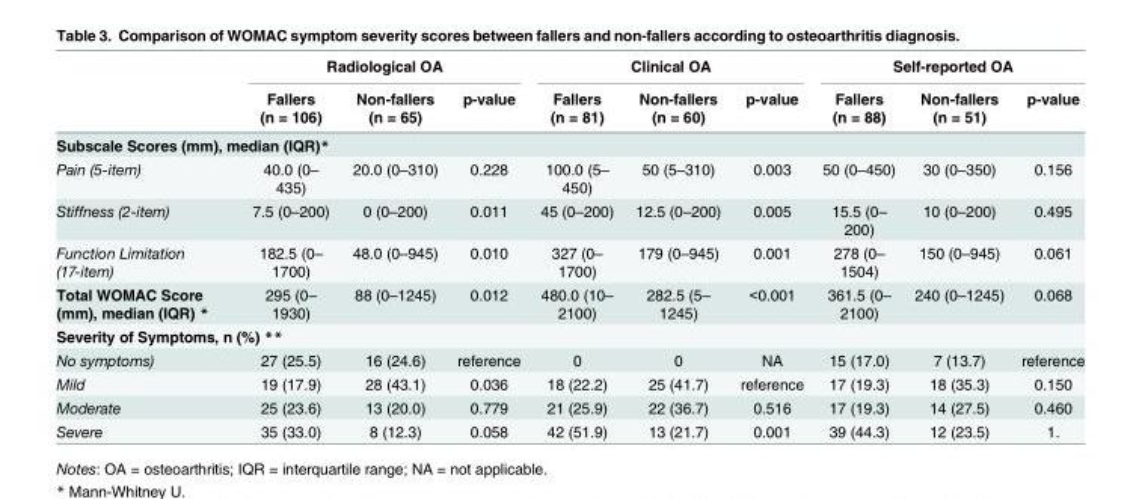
<table><thead><tr><td rowspan="2"></td><td colspan="3">Radiological OA</td><td colspan="3">Clinical OA</td><td colspan="3">Self-reported OA</td></tr><tr><td>Fallers (n = 106)</td><td>Non-fallers (n = 65)</td><td>p-value</td><td>Fallers (n = 81)</td><td>Non-fallers (n = 60)</td><td>p-value</td><td>Fallers (n = 88)</td><td>Non-fallers (n = 51)</td><td>p-value</td></tr></thead><tbody><tr><td colspan="10">Subscale Scores (mm), median (IQR)*</td></tr><tr><td>Pain (5-item)</td><td>40.0 (0– 435)</td><td>20.0 (0–310)</td><td>0.228</td><td>100.0 (5– 450)</td><td>50 (5–310)</td><td>0.003</td><td>50 (0–450)</td><td>30 (0–350)</td><td>0.156</td></tr><tr><td>Stiffness (2-item)</td><td>7.5 (0–200)</td><td>0 (0–200)</td><td>0.011</td><td>45 (0–200)</td><td>12.5 (0–200)</td><td>0.005</td><td>15.5 (0– 200)</td><td>10 (0–200)</td><td>0.495</td></tr><tr><td>Function Limitation (17-item)</td><td>182.5 (0– 1700)</td><td>48.0 (0–945)</td><td>0.010</td><td>327 (0– 1700)</td><td>179 (0–945)</td><td>0.001</td><td>278 (0– 1504)</td><td>150 (0–945)</td><td>0.061</td></tr><tr><td>Total WOMAC Score (mm), median (IQR) *</td><td>295 (0– 1930)</td><td>88 (0–1245)</td><td>0.012</td><td>480.0 (10– 2100)</td><td>282.5 (5– 1245)</td><td>&lt;0.001</td><td>361.5 (0– 2100)</td><td>240 (0–1245)</td><td>0.068</td></tr><tr><td colspan="10">Severity of Symptoms, n (%) **</td></tr><tr><td>No symptoms)</td><td>27 (25.5)</td><td>16 (24.6)</td><td>reference</td><td>0</td><td>0</td><td>NA</td><td>15 (17.0)</td><td>7 (13.7)</td><td>reference</td></tr><tr><td>Mild</td><td>19 (17.9)</td><td>28 (43.1)</td><td>0.036</td><td>18 (22.2)</td><td>25 (41.7)</td><td>reference</td><td>17 (19.3)</td><td>18 (35.3)</td><td>0.150</td></tr><tr><td>Moderate</td><td>25 (23.6)</td><td>13 (20.0)</td><td>0.779</td><td>21 (25.9)</td><td>22 (36.7)</td><td>0.516</td><td>17 (19.3)</td><td>14 (27.5)</td><td>0.460</td></tr><tr><td>Severe</td><td>35 (33.0)</td><td>8 (12.3)</td><td>0.058</td><td>42 (51.9)</td><td>13 (21.7)</td><td>0.001</td><td>39 (44.3)</td><td>12 (23.5)</td><td>1.</td></tr></tbody></table>